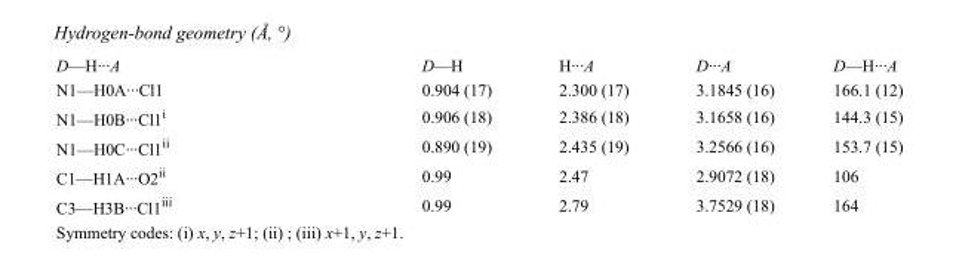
<table><tbody><tr><td>D—H···A</td><td>D—H</td><td>H···A</td><td>D···A</td><td>D—H···A</td></tr><tr><td>N1—H0A···Cl1</td><td>0.904 (17)</td><td>2.300 (17)</td><td>3.1845 (16)</td><td>166.1 (12)</td></tr><tr><td>N1—H0B···Cl1<sup>i</sup></td><td>0.906 (18)</td><td>2.386 (18)</td><td>3.1658 (16)</td><td>144.3 (15)</td></tr><tr><td>N1—H0C···Cl1<sup>ii</sup></td><td>0.890 (19)</td><td>2.435 (19)</td><td>3.2566 (16)</td><td>153.7 (15)</td></tr><tr><td>C1—H1A···O2<sup>ii</sup></td><td>0.99</td><td>2.47</td><td>2.9072 (18)</td><td>106</td></tr><tr><td>C3—H3B···Cl1<sup>iii</sup></td><td>0.99</td><td>2.79</td><td>3.7529 (18)</td><td>164</td></tr></tbody></table>